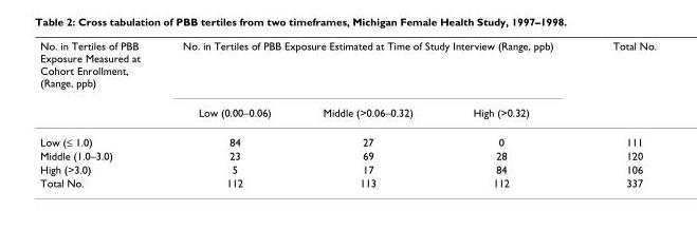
<table><thead><tr><td rowspan="2">No. in Tertiles of PBB Exposure Measured at Cohort Enrollment, (Range, ppb)</td><td colspan="3">No. in Tertiles of PBB Exposure Estimated at Time of Study Interview (Range, ppb)</td><td rowspan="2">Total No.</td></tr><tr><td>Low (0.00–0.06)</td><td>Middle (&gt;0.06–0.32)</td><td>High (&gt;0.32)</td></tr></thead><tbody><tr><td>Low (≤ 1.0)</td><td>84</td><td>27</td><td>0</td><td>111</td></tr><tr><td>Middle (1.0–3.0)</td><td>23</td><td>69</td><td>28</td><td>120</td></tr><tr><td>High (&gt;3.0)</td><td>5</td><td>17</td><td>84</td><td>106</td></tr><tr><td>Total No.</td><td>112</td><td>113</td><td>112</td><td>337</td></tr></tbody></table>